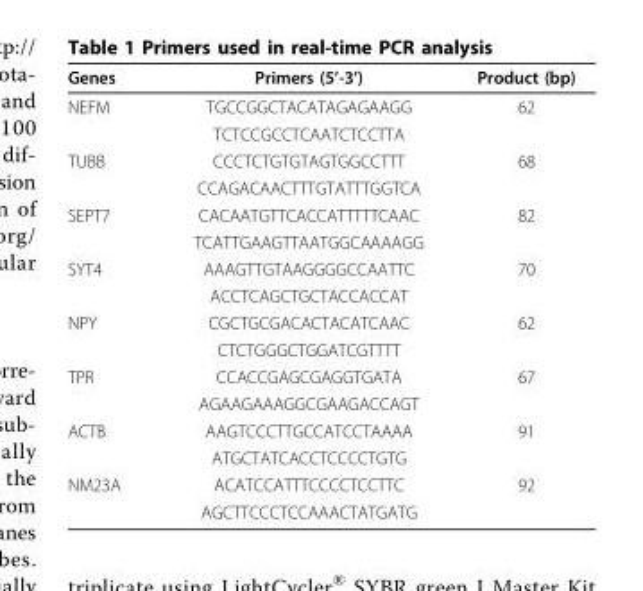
<table><thead><tr><td>Genes</td><td>Primers (5’-3’)</td><td>Product (bp)</td></tr></thead><tbody><tr><td rowspan="2">NEFM</td><td>TGCCGGCTACATAGAGAAGG</td><td>62</td></tr><tr><td>TCTCCGCCTCAATCTCCTTA</td><td></td></tr><tr><td rowspan="2">TUBB</td><td>CCCTCTGTGTAGTGGCCTTT</td><td>68</td></tr><tr><td>CCAGACAACTTTGTATTTGGTCA</td><td></td></tr><tr><td rowspan="2">SEPT7</td><td>CACAATGTTCACCATTTTTCAAC</td><td>82</td></tr><tr><td>TCATTGAAGTTAATGGCAAAAGG</td><td></td></tr><tr><td rowspan="2">SYT4</td><td>AAAGTTGTAAGGGGCCAATTC</td><td>70</td></tr><tr><td>ACCTCAGCTGCTACCACCAT</td><td></td></tr><tr><td rowspan="2">NPY</td><td>CGCTGCGACACTACATCAAC</td><td>62</td></tr><tr><td>CTCTGGGCTGGATCGTTTT</td><td></td></tr><tr><td rowspan="2">TPR</td><td>CCACCGAGCGAGGTGATA</td><td>67</td></tr><tr><td>AGAAGAAAGGCGAAGACCAGT</td><td></td></tr><tr><td rowspan="2">ACTB</td><td>AAGTCCCTTGCCATCCTAAAA</td><td>91</td></tr><tr><td>ATGCTATCACCTCCCCTGTG</td><td></td></tr><tr><td rowspan="2">NM23A</td><td>ACATCCATTTCCCCTCCTTC</td><td>92</td></tr><tr><td>AGCTTCCCTCCAAACTATGATG</td><td></td></tr></tbody></table>